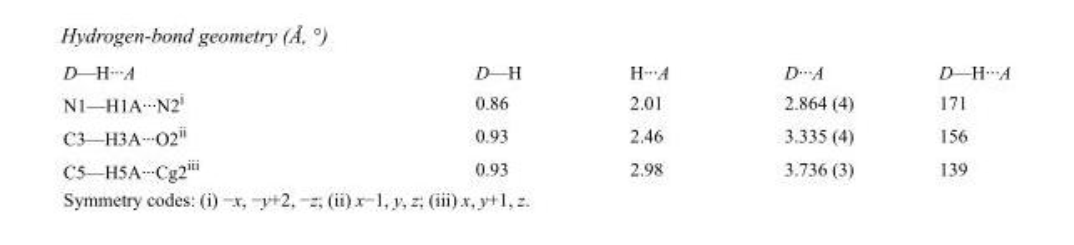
<table><tbody><tr><td>D—H···A</td><td>D—H</td><td>H···A</td><td>D···A</td><td>D—H···A</td></tr><tr><td>N1—H1A···N2<sup>i</sup></td><td>0.86</td><td>2.01</td><td>2.864 (4)</td><td>171</td></tr><tr><td>C3—H3A···O2<sup>ii</sup></td><td>0.93</td><td>2.46</td><td>3.335 (4)</td><td>156</td></tr><tr><td>C5—H5A···Cg2<sup>iii</sup></td><td>0.93</td><td>2.98</td><td>3.736 (3)</td><td>139</td></tr></tbody></table>